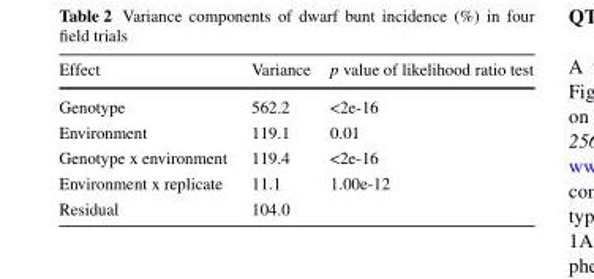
<table><thead><tr><td>Effect</td><td>Variance</td><td>p value of likelihood ratio test</td></tr></thead><tbody><tr><td>Genotype</td><td>562.2</td><td>&lt;2e-16</td></tr><tr><td>Environment</td><td>119.1</td><td>0.01</td></tr><tr><td>Genotype x environment</td><td>119.4</td><td>&lt;2e-16</td></tr><tr><td>Environment x replicate</td><td>11.1</td><td>1.00e-12</td></tr><tr><td>Residual</td><td>104.0</td><td></td></tr></tbody></table>